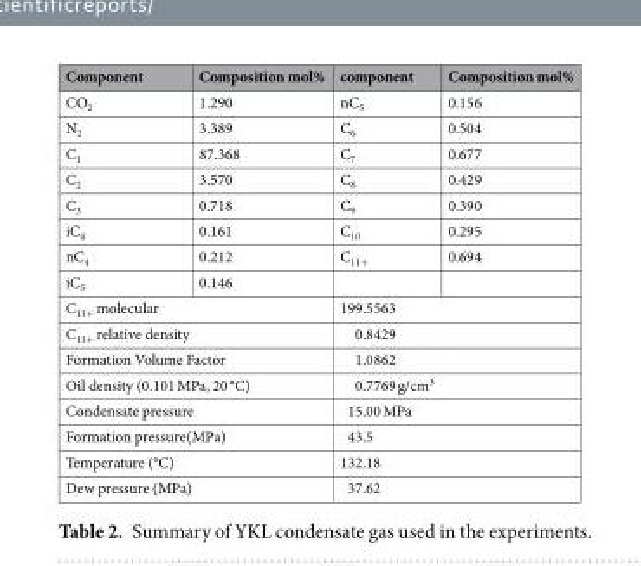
<table><thead><tr><td>Component</td><td>Composition mol%</td><td>component</td><td>Composition mol%</td></tr></thead><tbody><tr><td>CO<sub>2</sub></td><td>1.290</td><td>nC<sub>5</sub></td><td>0.156</td></tr><tr><td>N<sub>2</sub></td><td>3.389</td><td>C<sub>6</sub></td><td>0.504</td></tr><tr><td>C<sub>1</sub></td><td>87.368</td><td>C<sub>7</sub></td><td>0.677</td></tr><tr><td>C<sub>2</sub></td><td>3.570</td><td>C<sub>8</sub></td><td>0.429</td></tr><tr><td>C<sub>3</sub></td><td>0.718</td><td>C<sub>9</sub></td><td>0.390</td></tr><tr><td>iC<sub>4</sub></td><td>0.161</td><td>C<sub>10</sub></td><td>0.295</td></tr><tr><td>nC<sub>4</sub></td><td>0.212</td><td>C<sub>11+</sub></td><td>0.694</td></tr><tr><td>iC<sub>5</sub></td><td>0.146</td><td></td><td></td></tr><tr><td colspan="2">C<sub>11+</sub> molecular</td><td colspan="2">199.5563</td></tr><tr><td colspan="2">C<sub>11+</sub> relative density</td><td colspan="2">0.8429</td></tr><tr><td colspan="2">Formation Volume Factor</td><td colspan="2">1.0862</td></tr><tr><td colspan="2">Oil density (0.101 MPa, 20 °C)</td><td colspan="2">0.7769 g/cm<sup>3</sup></td></tr><tr><td colspan="2">Condensate pressure</td><td colspan="2">15.00 MPa</td></tr><tr><td colspan="2">Formation pressure(MPa)</td><td colspan="2">43.5</td></tr><tr><td colspan="2">Temperature (°C)</td><td colspan="2">132.18</td></tr><tr><td colspan="2">Dew pressure (MPa)</td><td colspan="2">37.62</td></tr></tbody></table>